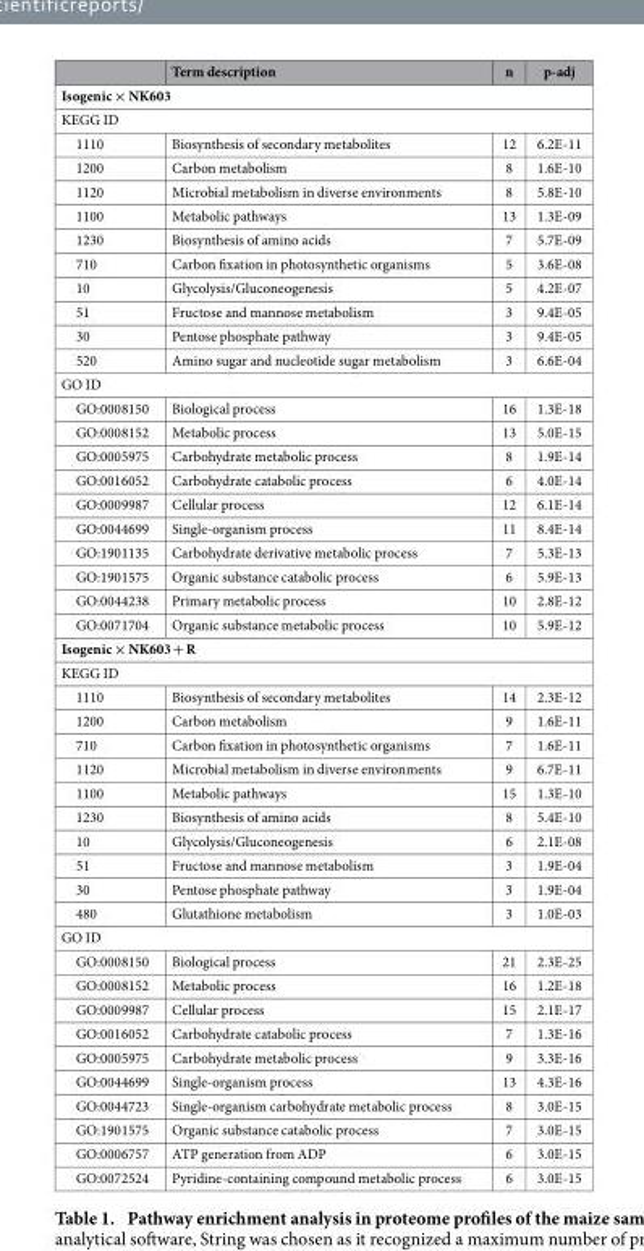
<table><thead><tr><td></td><td>Term description</td><td>n</td><td>p-adj</td></tr></thead><tbody><tr><td colspan="4">Isogenic × NK603</td></tr><tr><td colspan="4">KEGG ID</td></tr><tr><td>1110</td><td>Biosynthesis of secondary metabolites</td><td>12</td><td>6.2E-11</td></tr><tr><td>1200</td><td>Carbon metabolism</td><td>8</td><td>1.6E-10</td></tr><tr><td>1120</td><td>Microbial metabolism in diverse environments</td><td>8</td><td>5.8E-10</td></tr><tr><td>1100</td><td>Metabolic pathways</td><td>13</td><td>1.3E-09</td></tr><tr><td>1230</td><td>Biosynthesis of amino acids</td><td>7</td><td>5.7E-09</td></tr><tr><td>710</td><td>Carbon fixation in photosynthetic organisms</td><td>5</td><td>3.6E-08</td></tr><tr><td>10</td><td>Glycolysis/Gluconeogenesis</td><td>5</td><td>4.2E-07</td></tr><tr><td>51</td><td>Fructose and mannose metabolism</td><td>3</td><td>9.4E-05</td></tr><tr><td>30</td><td>Pentose phosphate pathway</td><td>3</td><td>9.4E-05</td></tr><tr><td>520</td><td>Amino sugar and nucleotide sugar metabolism</td><td>3</td><td>6.6E-04</td></tr><tr><td colspan="4">GO ID</td></tr><tr><td>GO:0008150</td><td>Biological process</td><td>16</td><td>1.3E-18</td></tr><tr><td>GO:0008152</td><td>Metabolic process</td><td>13</td><td>5.0E-15</td></tr><tr><td>GO:0005975</td><td>Carbohydrate metabolic process</td><td>8</td><td>1.9E-14</td></tr><tr><td>GO:0016052</td><td>Carbohydrate catabolic process</td><td>6</td><td>4.0E-14</td></tr><tr><td>GO:0009987</td><td>Cellular process</td><td>12</td><td>6.1E-14</td></tr><tr><td>GO:0044699</td><td>Single-organism process</td><td>11</td><td>8.4E-14</td></tr><tr><td>GO:1901135</td><td>Carbohydrate derivative metabolic process</td><td>7</td><td>5.3E-13</td></tr><tr><td>GO:1901575</td><td>Organic substance catabolic process</td><td>6</td><td>5.9E-13</td></tr><tr><td>GO:0044238</td><td>Primary metabolic process</td><td>10</td><td>2.8E-12</td></tr><tr><td>GO:0071704</td><td>Organic substance metabolic process</td><td>10</td><td>5.9E-12</td></tr><tr><td colspan="4">Isogenic × NK603 + R</td></tr><tr><td colspan="4">KEGG ID</td></tr><tr><td>1110</td><td>Biosynthesis of secondary metabolites</td><td>14</td><td>2.3E-12</td></tr><tr><td>1200</td><td>Carbon metabolism</td><td>9</td><td>1.6E-11</td></tr><tr><td>710</td><td>Carbon fixation in photosynthetic organisms</td><td>7</td><td>1.6E-11</td></tr><tr><td>1120</td><td>Microbial metabolism in diverse environments</td><td>9</td><td>6.7E-11</td></tr><tr><td>1100</td><td>Metabolic pathways</td><td>15</td><td>1.3E-10</td></tr><tr><td>1230</td><td>Biosynthesis of amino acids</td><td>8</td><td>5.4E-10</td></tr><tr><td>10</td><td>Glycolysis/Gluconeogenesis</td><td>6</td><td>2.1E-08</td></tr><tr><td>51</td><td>Fructose and mannose metabolism</td><td>3</td><td>1.9E-04</td></tr><tr><td>30</td><td>Pentose phosphate pathway</td><td>3</td><td>1.9E-04</td></tr><tr><td>480</td><td>Glutathione metabolism</td><td>3</td><td>1.0E-03</td></tr><tr><td colspan="4">GO ID</td></tr><tr><td>GO:0008150</td><td>Biological process</td><td>21</td><td>2.3E-25</td></tr><tr><td>GO:0008152</td><td>Metabolic process</td><td>16</td><td>1.2E-18</td></tr><tr><td>GO:0009987</td><td>Cellular process</td><td>15</td><td>2.1E-17</td></tr><tr><td>GO:0016052</td><td>Carbohydrate catabolic process</td><td>7</td><td>1.3E-16</td></tr><tr><td>GO:0005975</td><td>Carbohydrate metabolic process</td><td>9</td><td>3.3E-16</td></tr><tr><td>GO:0044699</td><td>Single-organism process</td><td>13</td><td>4.3E-16</td></tr><tr><td>GO:0044723</td><td>Single-organism carbohydrate metabolic process</td><td>8</td><td>3.0E-15</td></tr><tr><td>GO:1901575</td><td>Organic substance catabolic process</td><td>7</td><td>3.0E-15</td></tr><tr><td>GO:0006757</td><td>ATP generation from ADP</td><td>6</td><td>3.0E-15</td></tr><tr><td>GO:0072524</td><td>Pyridine-containing compound metabolic process</td><td>6</td><td>3.0E-15</td></tr></tbody></table>